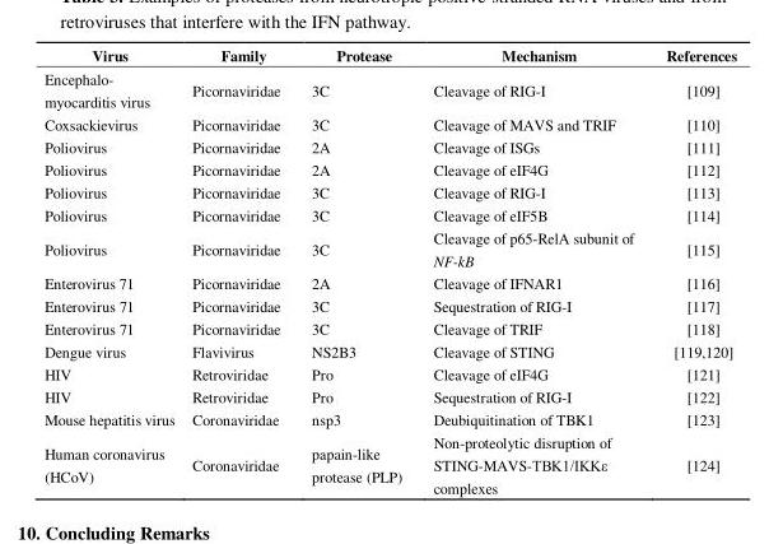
<table><thead><tr><td>Virus</td><td>Family</td><td>Protease</td><td>Mechanism</td><td>References</td></tr></thead><tbody><tr><td>Encephalo- myocarditis virus</td><td>Picornaviridae</td><td>3C</td><td>Cleavage of RIG-I</td><td>[109]</td></tr><tr><td>Coxsackievirus</td><td>Picornaviridae</td><td>3C</td><td>Cleavage of MAVS and TRIF</td><td>[110]</td></tr><tr><td>Poliovirus</td><td>Picornaviridae</td><td>2A</td><td>Cleavage of ISGs</td><td>[111]</td></tr><tr><td>Poliovirus</td><td>Picornaviridae</td><td>2A</td><td>Cleavage of eIF4G</td><td>[112]</td></tr><tr><td>Poliovirus</td><td>Picornaviridae</td><td>3C</td><td>Cleavage of RIG-I</td><td>[113]</td></tr><tr><td>Poliovirus</td><td>Picornaviridae</td><td>3C</td><td>Cleavage of eIF5B</td><td>[114]</td></tr><tr><td>Poliovirus</td><td>Picornaviridae</td><td>3C</td><td>Cleavage of p65-RelA subunit of NF-kB</td><td>[115]</td></tr><tr><td>Enterovirus 71</td><td>Picornaviridae</td><td>2A</td><td>Cleavage of IFNAR1</td><td>[116]</td></tr><tr><td>Enterovirus 71</td><td>Picornaviridae</td><td>3C</td><td>Sequestration of RIG-I</td><td>[117]</td></tr><tr><td>Enterovirus 71</td><td>Picornaviridae</td><td>3C</td><td>Cleavage of TRIF</td><td>[118]</td></tr><tr><td>Dengue virus</td><td>Flavivirus</td><td>NS2B3</td><td>Cleavage of STING</td><td>[119,120]</td></tr><tr><td>HIV</td><td>Retroviridae</td><td>Pro</td><td>Cleavage of eIF4G</td><td>[121]</td></tr><tr><td>HIV</td><td>Retroviridae</td><td>Pro</td><td>Sequestration of RIG-I</td><td>[122]</td></tr><tr><td>Mouse hepatitis virus</td><td>Coronaviridae</td><td>nsp3</td><td>Deubiquitination of TBK1</td><td>[123]</td></tr><tr><td>Human coronavirus (HCoV)</td><td>Coronaviridae</td><td>papain-like protease (PLP)</td><td>Non-proteolytic disruption of STING-MAVS-TBK1/IKKε complexes</td><td>[124]</td></tr></tbody></table>